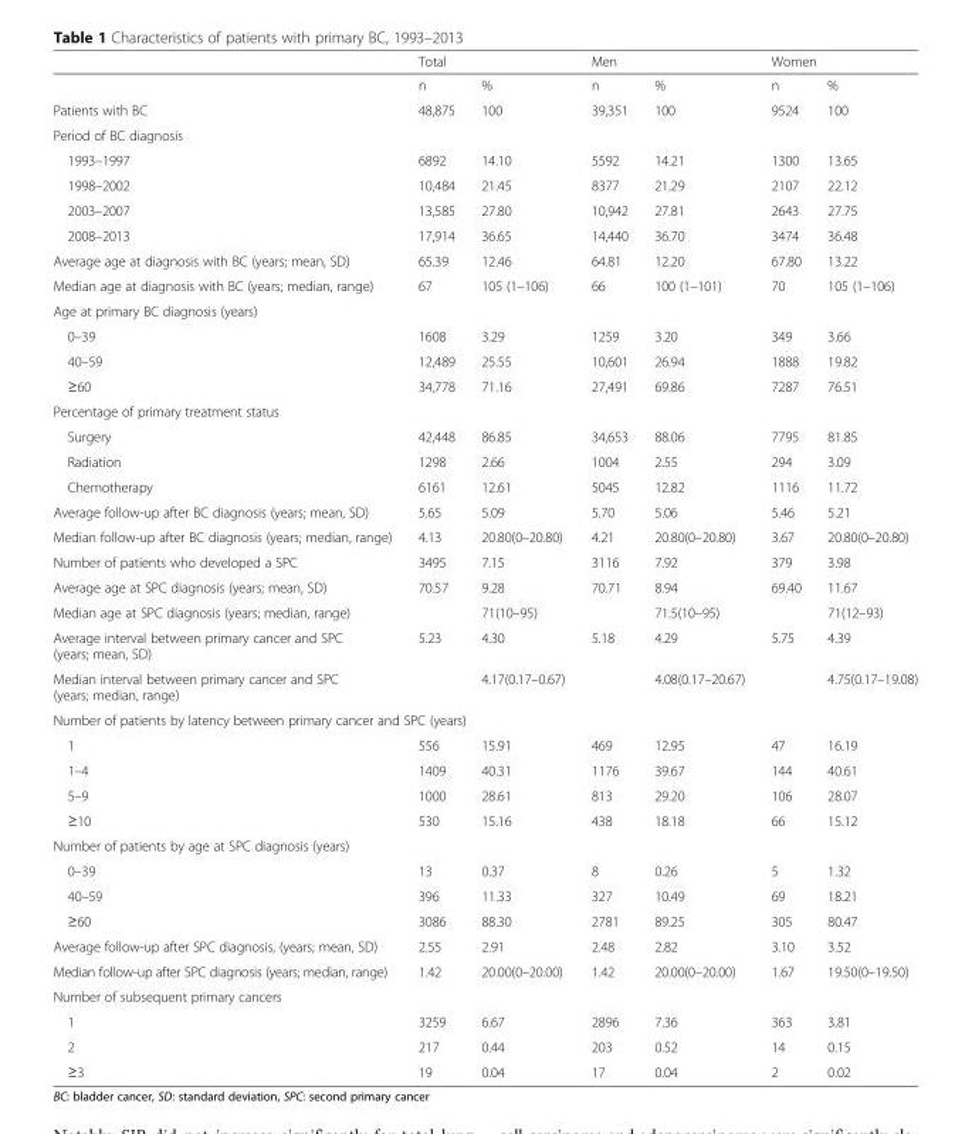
<table><thead><tr><td rowspan="2"></td><td colspan="2">Total</td><td colspan="2">Men</td><td colspan="2">Women</td></tr><tr><td>n</td><td>%</td><td>n</td><td>%</td><td>n</td><td>%</td></tr></thead><tbody><tr><td>Patients with BC</td><td>48,875</td><td>100</td><td>39,351</td><td>100</td><td>9524</td><td>100</td></tr><tr><td colspan="7">Period of BC diagnosis</td></tr><tr><td>1993–1997</td><td>6892</td><td>14.10</td><td>5592</td><td>14.21</td><td>1300</td><td>13.65</td></tr><tr><td>1998–2002</td><td>10,484</td><td>21.45</td><td>8377</td><td>21.29</td><td>2107</td><td>22.12</td></tr><tr><td>2003–2007</td><td>13,585</td><td>27.80</td><td>10,942</td><td>27.81</td><td>2643</td><td>27.75</td></tr><tr><td>2008–2013</td><td>17,914</td><td>36.65</td><td>14,440</td><td>36.70</td><td>3474</td><td>36.48</td></tr><tr><td>Average age at diagnosis with BC (years; mean, SD)</td><td>65.39</td><td>12.46</td><td>64.81</td><td>12.20</td><td>67.80</td><td>13.22</td></tr><tr><td>Median age at diagnosis with BC (years; median, range)</td><td>67</td><td>105 (1–106)</td><td>66</td><td>100 (1–101)</td><td>70</td><td>105 (1–106)</td></tr><tr><td colspan="7">Age at primary BC diagnosis (years)</td></tr><tr><td>0–39</td><td>1608</td><td>3.29</td><td>1259</td><td>3.20</td><td>349</td><td>3.66</td></tr><tr><td>40–59</td><td>12,489</td><td>25.55</td><td>10,601</td><td>26.94</td><td>1888</td><td>19.82</td></tr><tr><td>≥60</td><td>34,778</td><td>71.16</td><td>27,491</td><td>69.86</td><td>7287</td><td>76.51</td></tr><tr><td colspan="7">Percentage of primary treatment status</td></tr><tr><td>Surgery</td><td>42,448</td><td>86.85</td><td>34,653</td><td>88.06</td><td>7795</td><td>81.85</td></tr><tr><td>Radiation</td><td>1298</td><td>2.66</td><td>1004</td><td>2.55</td><td>294</td><td>3.09</td></tr><tr><td>Chemotherapy</td><td>6161</td><td>12.61</td><td>5045</td><td>12.82</td><td>1116</td><td>11.72</td></tr><tr><td>Average follow-up after BC diagnosis (years; mean, SD)</td><td>5.65</td><td>5.09</td><td>5.70</td><td>5.06</td><td>5.46</td><td>5.21</td></tr><tr><td>Median follow-up after BC diagnosis (years; median, range)</td><td>4.13</td><td>20.80(0–20.80)</td><td>4.21</td><td>20.80(0–20.80)</td><td>3.67</td><td>20.80(0–20.80)</td></tr><tr><td>Number of patients who developed a SPC</td><td>3495</td><td>7.15</td><td>3116</td><td>7.92</td><td>379</td><td>3.98</td></tr><tr><td>Average age at SPC diagnosis (years; mean, SD)</td><td>70.57</td><td>9.28</td><td>70.71</td><td>8.94</td><td>69.40</td><td>11.67</td></tr><tr><td>Median age at SPC diagnosis (years; median, range)</td><td></td><td>71(10–95)</td><td></td><td>71.5(10–95)</td><td></td><td>71(12–93)</td></tr><tr><td>Average interval between primary cancer and SPC (years; mean, SD)</td><td>5.23</td><td>4.30</td><td>5.18</td><td>4.29</td><td>5.75</td><td>4.39</td></tr><tr><td>Median interval between primary cancer and SPC (years; median, range)</td><td></td><td>4.17(0.17–0.67)</td><td></td><td>4.08(0.17–20.67)</td><td></td><td>4.75(0.17–19.08)</td></tr><tr><td colspan="7">Number of patients by latency between primary cancer and SPC (years)</td></tr><tr><td>1</td><td>556</td><td>15.91</td><td>469</td><td>12.95</td><td>47</td><td>16.19</td></tr><tr><td>1–4</td><td>1409</td><td>40.31</td><td>1176</td><td>39.67</td><td>144</td><td>40.61</td></tr><tr><td>5–9</td><td>1000</td><td>28.61</td><td>813</td><td>29.20</td><td>106</td><td>28.07</td></tr><tr><td>≥10</td><td>530</td><td>15.16</td><td>438</td><td>18.18</td><td>66</td><td>15.12</td></tr><tr><td colspan="7">Number of patients by age at SPC diagnosis (years)</td></tr><tr><td>0–39</td><td>13</td><td>0.37</td><td>8</td><td>0.26</td><td>5</td><td>1.32</td></tr><tr><td>40–59</td><td>396</td><td>11.33</td><td>327</td><td>10.49</td><td>69</td><td>18.21</td></tr><tr><td>≥60</td><td>3086</td><td>88.30</td><td>2781</td><td>89.25</td><td>305</td><td>80.47</td></tr><tr><td>Average follow-up after SPC diagnosis, (years; mean, SD)</td><td>2.55</td><td>2.91</td><td>2.48</td><td>2.82</td><td>3.10</td><td>3.52</td></tr><tr><td>Median follow-up after SPC diagnosis (years; median, range)</td><td>1.42</td><td>20.00(0–20.00)</td><td>1.42</td><td>20.00(0–20.00)</td><td>1.67</td><td>19.50(0–19.50)</td></tr><tr><td colspan="7">Number of subsequent primary cancers</td></tr><tr><td>1</td><td>3259</td><td>6.67</td><td>2896</td><td>7.36</td><td>363</td><td>3.81</td></tr><tr><td>2</td><td>217</td><td>0.44</td><td>203</td><td>0.52</td><td>14</td><td>0.15</td></tr><tr><td>≥3</td><td>19</td><td>0.04</td><td>17</td><td>0.04</td><td>2</td><td>0.02</td></tr></tbody></table>